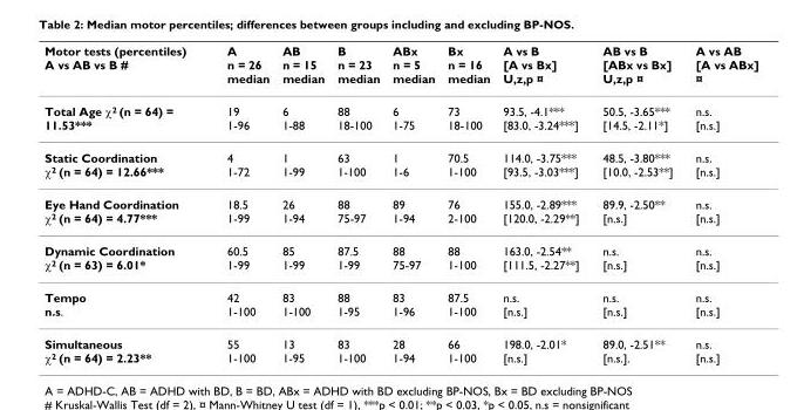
<table><thead><tr><td>Motor tests (percentiles) A vs AB vs B #</td><td>A n = 26 median</td><td>AB n = 15 median</td><td>B n = 23 median</td><td>ABx n = 5 median</td><td>Bx n = 16 median</td><td>A vs B [A vs Bx] U,z,p ¤</td><td>AB vs B [ABx vs Bx] U,z,p ¤</td><td>A vs AB [A vs ABx] ¤</td></tr></thead><tbody><tr><td>Total Age χ<sup>2</sup> (n = 64) = 11.53***</td><td>19 1-96</td><td>6 1-88</td><td>88 18-100</td><td>6 1-75</td><td>73 18-100</td><td>93.5, -4.1*** [83.0, -3.24***]</td><td>50.5, -3.65*** [14.5, -2.11*]</td><td>n.s. [n.s.]</td></tr><tr><td>Static Coordination χ<sup>2</sup> (n = 64) = 12.66***</td><td>4 1-72</td><td>1 1-99</td><td>63 1-100</td><td>1 1-6</td><td>70.5 1-100</td><td>114.0, -3.75*** [93.5, -3.03***]</td><td>48.5, -3.80*** [10.0, -2.53**]</td><td>n.s. [n.s.]</td></tr><tr><td>Eye Hand Coordination χ<sup>2</sup> (n = 64) = 4.77***</td><td>18.5 1-99</td><td>26 1-94</td><td>88 75-97</td><td>89 1-94</td><td>76 2-100</td><td>155.0, -2.89*** [120.0, -2.29**]</td><td>89.9, -2.50** [n.s.]</td><td>n.s. [n.s.]</td></tr><tr><td>Dynamic Coordination χ<sup>2</sup> (n = 63) = 6.01*</td><td>60.5 1-99</td><td>85 1-99</td><td>87.5 1-99</td><td>88 75-97</td><td>88 1-100</td><td>163.0, -2.54** [111.5, -2.27**]</td><td>n.s. [n.s.]</td><td>n.s. [n.s.]</td></tr><tr><td>Tempo n.s.</td><td>42 1-100</td><td>83 1-100</td><td>88 1-95</td><td>83 1-96</td><td>87.5 1-100</td><td>n.s. [n.s.]</td><td>n.s. [n.s.]</td><td>n.s. [n.s.]</td></tr><tr><td>Simultaneous χ<sup>2</sup> (n = 64) = 2.23**</td><td>55 1-100</td><td>13 1-95</td><td>83 1-100</td><td>28 1-94</td><td>66 1-100</td><td>198.0, -2.01* [n.s.]</td><td>89.0, -2.51** [n.s.].</td><td>n.s. [n.s.]</td></tr></tbody></table>